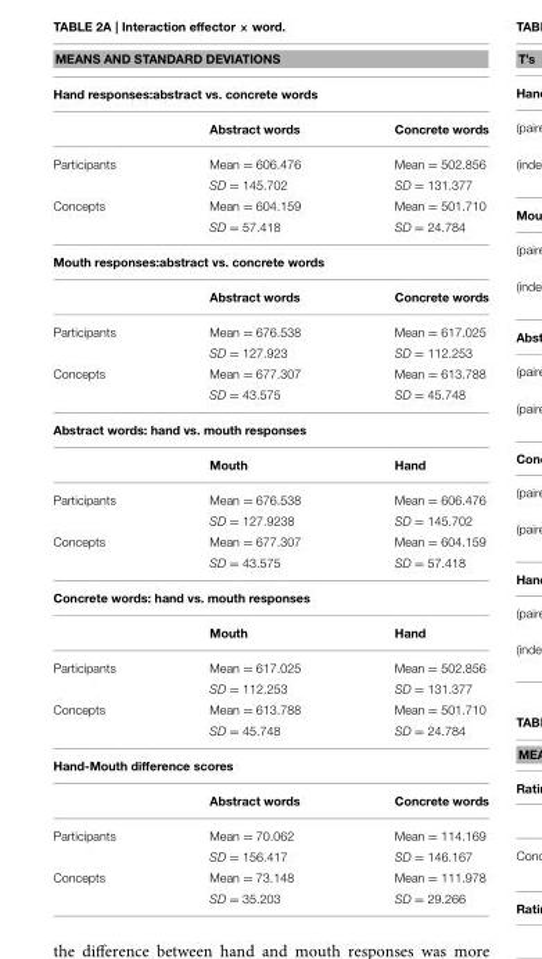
<table><thead><tr><td rowspan="2" colspan="3">MEANS AND STANDARD DEVIATIONS Hand responses:abstract vs. concrete words</td></tr><tr></tr><tr><td></td><td>Abstract words</td><td>Concrete words</td></tr></thead><tbody><tr><td rowspan="2">Participants</td><td>Mean = 606.476</td><td>Mean = 502.856</td></tr><tr><td>SD = 145.702</td><td>SD = 131.377</td></tr><tr><td rowspan="2">Concepts</td><td>Mean = 604.159</td><td>Mean = 501.710</td></tr><tr><td>SD = 57.418</td><td>SD = 24.784</td></tr><tr><td colspan="3">Mouth responses:abstract vs. concrete words</td></tr><tr><td></td><td>Abstract words</td><td>Concrete words</td></tr><tr><td rowspan="2">Participants</td><td>Mean = 676.538</td><td>Mean = 617.025</td></tr><tr><td>SD = 127.923</td><td>SD = 112.253</td></tr><tr><td rowspan="2">Concepts</td><td>Mean = 677.307</td><td>Mean = 613.788</td></tr><tr><td>SD = 43.575</td><td>SD = 45.748</td></tr><tr><td colspan="3">Abstract words: hand vs. mouth responses</td></tr><tr><td></td><td>Mouth</td><td>Hand</td></tr><tr><td rowspan="2">Participants</td><td>Mean = 676.538</td><td>Mean = 606.476</td></tr><tr><td>SD = 127.9238</td><td>SD = 145.702</td></tr><tr><td rowspan="2">Concepts</td><td>Mean = 677.307</td><td>Mean = 604.159</td></tr><tr><td>SD = 43.575</td><td>SD = 57.418</td></tr><tr><td colspan="3">Concrete words: hand vs. mouth responses</td></tr><tr><td></td><td>Mouth</td><td>Hand</td></tr><tr><td rowspan="2">Participants</td><td>Mean = 617.025</td><td>Mean = 502.856</td></tr><tr><td>SD = 112.253</td><td>SD = 131.377</td></tr><tr><td rowspan="2">Concepts</td><td>Mean = 613.788</td><td>Mean = 501.710</td></tr><tr><td>SD = 45.748</td><td>SD = 24.784</td></tr><tr><td colspan="3">Hand-Mouth difference scores</td></tr><tr><td></td><td>Abstract words</td><td>Concrete words</td></tr><tr><td rowspan="2">Participants</td><td>Mean = 70.062</td><td>Mean = 114.169</td></tr><tr><td>SD = 156.417</td><td>SD = 146.167</td></tr><tr><td rowspan="2">Concepts</td><td>Mean = 73.148</td><td>Mean = 111.978</td></tr><tr><td>SD = 35.203</td><td>SD = 29.266</td></tr></tbody></table>